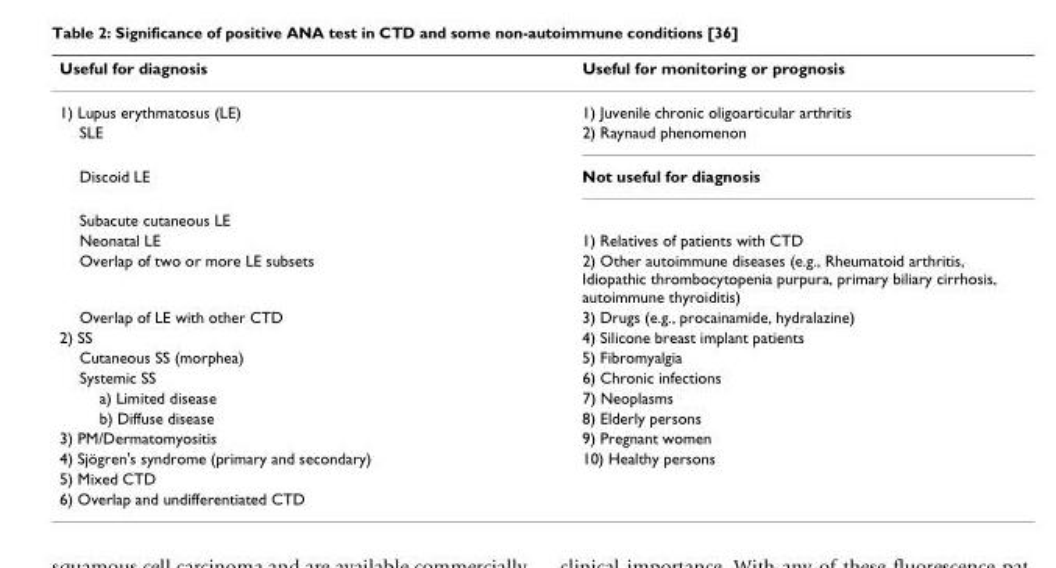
<table><thead><tr><td>Useful for diagnosis</td><td>Useful for monitoring or prognosis</td></tr></thead><tbody><tr><td>1) Lupus erythmatosus (LE)</td><td>1) Juvenile chronic oligoarticular arthritis</td></tr><tr><td>SLE</td><td>2) Raynaud phenomenon</td></tr><tr><td>Discoid LE</td><td>Not useful for diagnosis</td></tr><tr><td colspan="2">Subacute cutaneous LE</td></tr><tr><td>Neonatal LE</td><td>1) Relatives of patients with CTD</td></tr><tr><td>Overlap of two or more LE subsets</td><td>2) Other autoimmune diseases (e.g., Rheumatoid arthritis, Idiopathic thrombocytopenia purpura, primary biliary cirrhosis, autoimmune thyroiditis)</td></tr><tr><td>Overlap of LE with other CTD</td><td>3) Drugs (e.g., procainamide, hydralazine)</td></tr><tr><td>2) SS</td><td>4) Silicone breast implant patients</td></tr><tr><td>Cutaneous SS (morphea)</td><td>5) Fibromyalgia</td></tr><tr><td>Systemic SS</td><td>6) Chronic infections</td></tr><tr><td>a) Limited disease</td><td>7) Neoplasms</td></tr><tr><td>b) Diffuse disease</td><td>8) Elderly persons</td></tr><tr><td>3) PM/Dermatomyositis</td><td>9) Pregnant women</td></tr><tr><td>4) Sjögren&#x27;s syndrome (primary and secondary)</td><td>10) Healthy persons</td></tr><tr><td colspan="2">5) Mixed CTD</td></tr><tr><td>6) Overlap and undifferentiated CTD</td><td></td></tr></tbody></table>